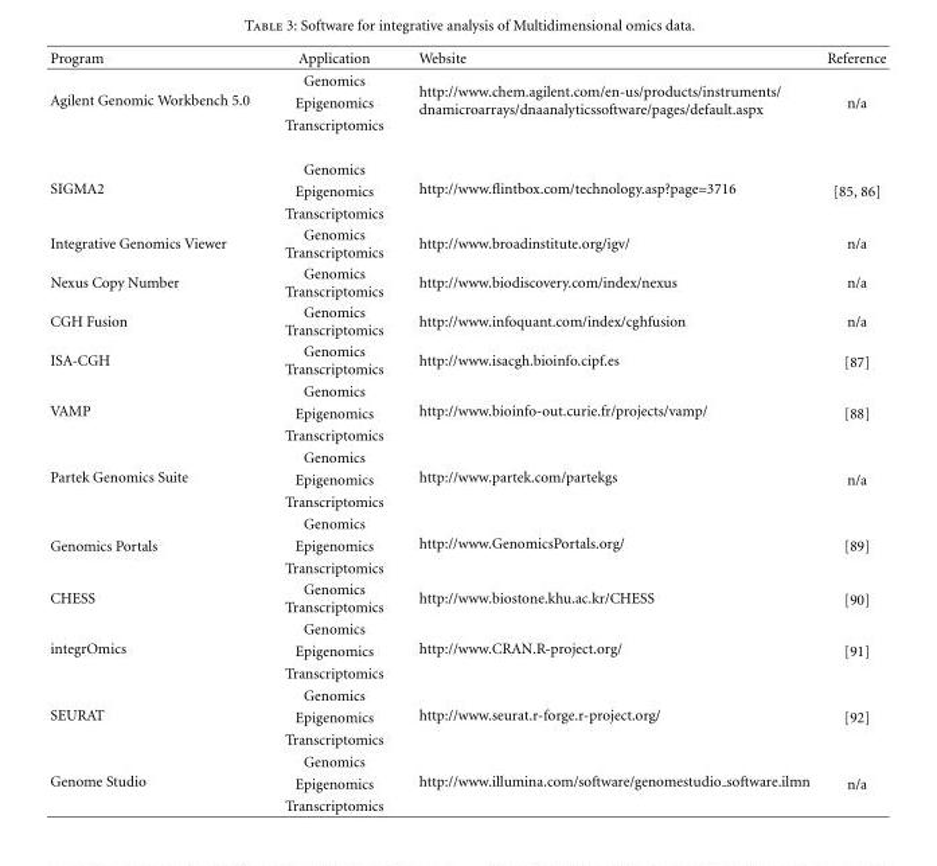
<table><thead><tr><td>Program</td><td>Application</td><td>Website</td><td>Reference</td></tr></thead><tbody><tr><td rowspan="3">Agilent Genomic Workbench 5.0</td><td>Genomics</td><td rowspan="3">http://www.chem.agilent.com/en-us/products/instruments/ dnamicroarrays/dnaanalyticssoftware/pages/default.aspx</td><td></td></tr><tr><td>Epigenomics</td><td>n/a</td></tr><tr><td>Transcriptomics</td><td></td></tr><tr><td rowspan="3">SIGMA2</td><td>Genomics</td><td rowspan="3">http://www.flintbox.com/technology.asp?page=3716</td><td></td></tr><tr><td>Epigenomics</td><td>[85, 86]</td></tr><tr><td>Transcriptomics</td><td></td></tr><tr><td>Integrative Genomics Viewer</td><td>Genomics Transcriptomics</td><td>http://www.broadinstitute.org/igv/</td><td>n/a</td></tr><tr><td>Nexus Copy Number</td><td>Genomics Transcriptomics</td><td>http://www.biodiscovery.com/index/nexus</td><td>n/a</td></tr><tr><td>CGH Fusion</td><td>Genomics Transcriptomics</td><td>http://www.infoquant.com/index/cghfusion</td><td>n/a</td></tr><tr><td>ISA-CGH</td><td>Genomics Transcriptomics</td><td>http://www.isacgh.bioinfo.cipf.es</td><td>[87]</td></tr><tr><td rowspan="3">VAMP</td><td>Genomics</td><td rowspan="3">http://www.bioinfo-out.curie.fr/projects/vamp/</td><td></td></tr><tr><td>Epigenomics</td><td>[88]</td></tr><tr><td>Transcriptomics</td><td></td></tr><tr><td rowspan="4">Partek Genomics Suite</td><td>Genomics</td><td rowspan="3">http://www.partek.com/partekgs</td><td></td></tr><tr><td>Epigenomics</td><td>n/a</td></tr><tr><td>Transcriptomics</td><td></td></tr><tr><td>Genomics</td><td rowspan="3">http://www.GenomicsPortals.org/</td><td></td></tr><tr><td rowspan="2">Genomics Portals</td><td>Epigenomics</td><td>[89]</td></tr><tr><td>Transcriptomics</td><td></td></tr><tr><td>CHESS</td><td>Genomics Transcriptomics</td><td>http://www.biostone.khu.ac.kr/CHESS</td><td>[90]</td></tr><tr><td rowspan="3">integrOmics</td><td>Genomics</td><td rowspan="3">http://www.CRAN.R-project.org/</td><td></td></tr><tr><td>Epigenomics</td><td>[91]</td></tr><tr><td>Transcriptomics</td><td></td></tr><tr><td rowspan="3">SEURAT</td><td>Genomics</td><td rowspan="3">http://www.seurat.r-forge.r-project.org/</td><td></td></tr><tr><td>Epigenomics</td><td>[92]</td></tr><tr><td>Transcriptomics</td><td></td></tr><tr><td rowspan="3">Genome Studio</td><td>Genomics</td><td rowspan="3">http://www.illumina.com/software/genomestudio software.ilmn</td><td></td></tr><tr><td>Epigenomics</td><td>n/a</td></tr><tr><td>Transcriptomics</td><td></td></tr></tbody></table>